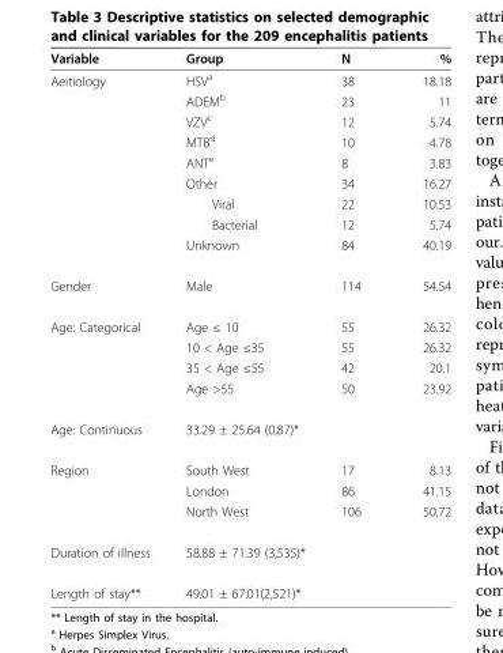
<table><thead><tr><td>Variable</td><td>Group</td><td>N</td><td>%</td></tr></thead><tbody><tr><td rowspan="9">Aeitiology</td><td>HSV<sup>a</sup></td><td>38</td><td>18.18</td></tr><tr><td>ADEM<sup>b</sup></td><td>23</td><td>11</td></tr><tr><td>VZV<sup>c</sup></td><td>12</td><td>5.74</td></tr><tr><td>MTB<sup>d</sup></td><td>10</td><td>4.78</td></tr><tr><td>ANT<sup>e</sup></td><td>8</td><td>3.83</td></tr><tr><td>Other</td><td>34</td><td>16.27</td></tr><tr><td>Viral</td><td>22</td><td>10.53</td></tr><tr><td>Bacterial</td><td>12</td><td>5.74</td></tr><tr><td>Unknown</td><td>84</td><td>40.19</td></tr><tr><td>Gender</td><td>Male</td><td>114</td><td>54.54</td></tr><tr><td rowspan="4">Age: Categorical</td><td>Age ≤ 10</td><td>55</td><td>26.32</td></tr><tr><td>10 &lt; Age ≤35</td><td>55</td><td>26.32</td></tr><tr><td>35 &lt; Age ≤55</td><td>42</td><td>20.1</td></tr><tr><td>Age &gt;55</td><td>50</td><td>23.92</td></tr><tr><td>Age: Continuous</td><td>33.29 ± 25.64 (0,87)*</td><td></td><td></td></tr><tr><td rowspan="3">Region</td><td>South West</td><td>17</td><td>8.13</td></tr><tr><td>London</td><td>86</td><td>41.15</td></tr><tr><td>North West</td><td>106</td><td>50.72</td></tr><tr><td>Duration of illness</td><td>58.88 ± 71.39 (3,535)*</td><td></td><td></td></tr><tr><td>Length of stay**</td><td>49.01 ± 67.01(2,521)*</td><td></td><td></td></tr></tbody></table>